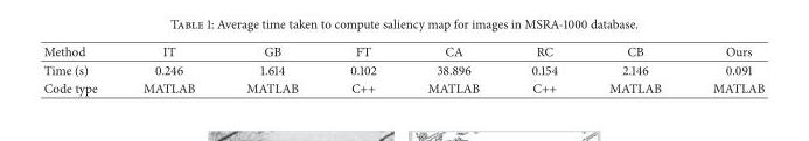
<table><thead><tr><td>Method</td><td>IT</td><td>GB</td><td>FT</td><td>CA</td><td>RC</td><td>CB</td><td>Ours</td></tr></thead><tbody><tr><td>Time (s)</td><td>0.246</td><td>1.614</td><td>0.102</td><td>38.896</td><td>0.154</td><td>2.146</td><td>0.091</td></tr><tr><td>Code type</td><td>MATLAB</td><td>MATLAB</td><td>C++</td><td>MATLAB</td><td>C++</td><td>MATLAB</td><td>MATLAB</td></tr></tbody></table>